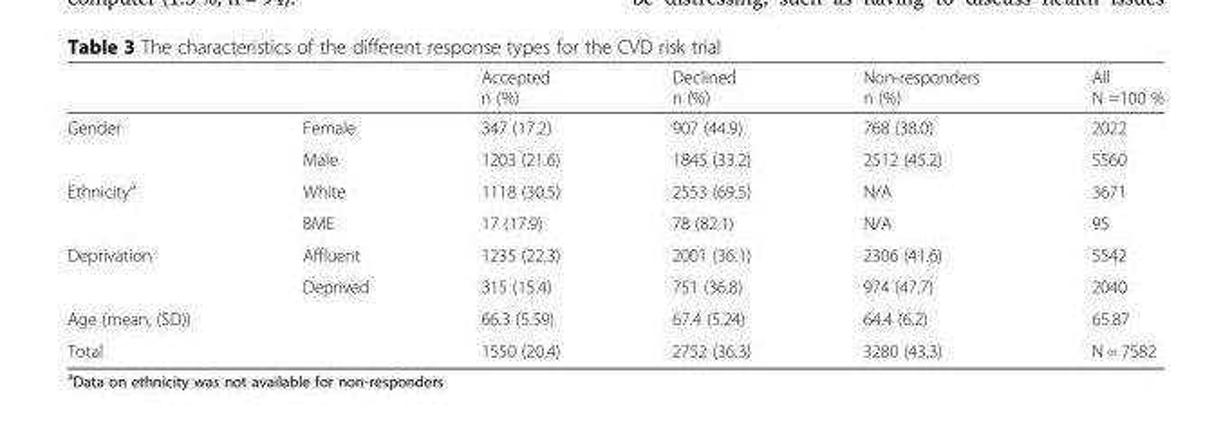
<table><thead><tr><td></td><td></td><td>Accepted n (%)</td><td>Declined n (%)</td><td>Non-responders n (%)</td><td>All N =100 %</td></tr></thead><tbody><tr><td rowspan="2">Gender</td><td>Female</td><td>347 (17.2)</td><td>907 (44.9)</td><td>768 (38.0)</td><td>2022</td></tr><tr><td>Male</td><td>1203 (21.6)</td><td>1845 (33.2)</td><td>2512 (45.2)</td><td>5560</td></tr><tr><td rowspan="2">Ethnicity<sup>a</sup></td><td>White</td><td>1118 (30.5)</td><td>2553 (69.5)</td><td>N/A</td><td>3671</td></tr><tr><td>BME</td><td>17 (17.9)</td><td>78 (82.1)</td><td>N/A</td><td>95</td></tr><tr><td rowspan="2">Deprivation</td><td>Affluent</td><td>1235 (22.3)</td><td>2001 (36.1)</td><td>2306 (41.6)</td><td>5542</td></tr><tr><td>Deprived</td><td>315 (15.4)</td><td>751 (36.8)</td><td>974 (47.7)</td><td>2040</td></tr><tr><td>Age (mean, (SD))</td><td></td><td>66.3 (5.59)</td><td>67.4 (5.24)</td><td>64.4 (6.2)</td><td>65.87</td></tr><tr><td>Total</td><td></td><td>1550 (20.4)</td><td>2752 (36.3)</td><td>3280 (43.3)</td><td>N = 7582</td></tr></tbody></table>